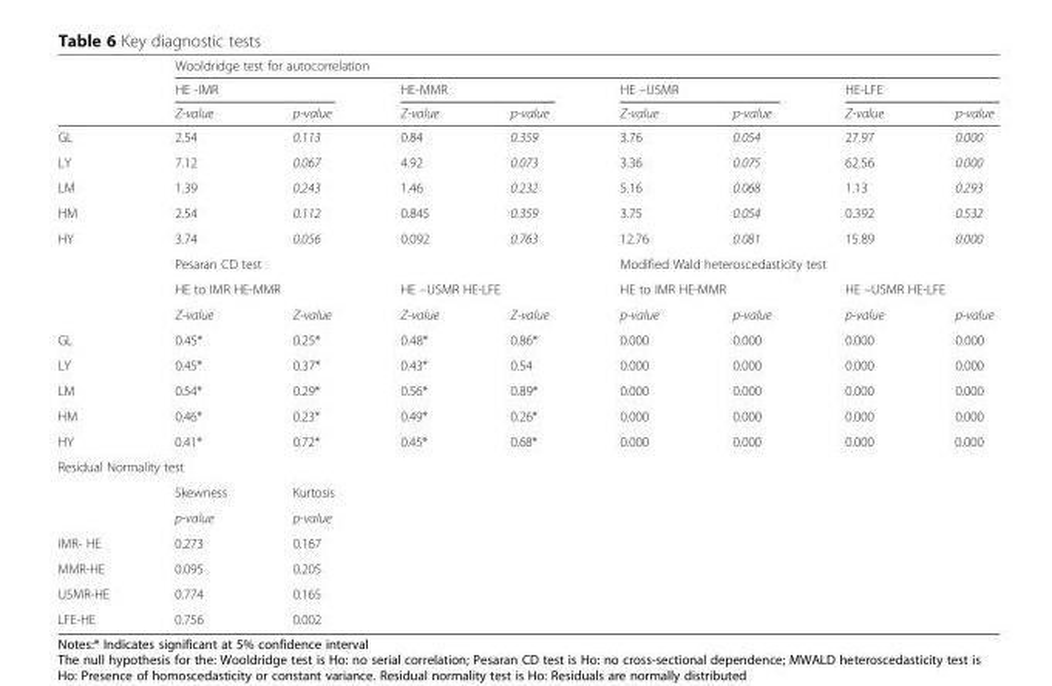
<table><thead><tr><td rowspan="3"></td><td colspan="8">Wooldridge test for autocorrelation</td></tr><tr><td colspan="2">HE -IMR</td><td colspan="2">HE-MMR</td><td colspan="2">HE –U5MR</td><td colspan="2">HE-LFE</td></tr><tr><td>Z-value</td><td>p-value</td><td>Z-value</td><td>p-value</td><td>Z-value</td><td>p-value</td><td>Z-value</td><td>p-value</td></tr></thead><tbody><tr><td>GL</td><td>2.54</td><td>0.113</td><td>0.84</td><td>0.359</td><td>3.76</td><td>0.054</td><td>27.97</td><td>0.000</td></tr><tr><td>LY</td><td>7.12</td><td>0.067</td><td>4.92</td><td>0.073</td><td>3.36</td><td>0.075</td><td>62.56</td><td>0.000</td></tr><tr><td>LM</td><td>1.39</td><td>0.243</td><td>1.46</td><td>0.232</td><td>5.16</td><td>0.068</td><td>1.13</td><td>0.293</td></tr><tr><td>HM</td><td>2.54</td><td>0.112</td><td>0.845</td><td>0.359</td><td>3.75</td><td>0.054</td><td>0.392</td><td>0.532</td></tr><tr><td rowspan="4">HY</td><td>3.74</td><td>0.056</td><td>0.092</td><td>0.763</td><td>12.76</td><td>0.081</td><td>15.89</td><td>0.000</td></tr><tr><td colspan="4">Pesaran CD test</td><td colspan="4">Modified Wald heteroscedasticity test</td></tr><tr><td colspan="2">HE to IMR HE-MMR</td><td colspan="2">HE –U5MR HE-LFE</td><td colspan="2">HE to IMR HE-MMR</td><td colspan="2">HE –U5MR HE-LFE</td></tr><tr><td>Z-value</td><td>Z-value</td><td>Z-value</td><td>Z-value</td><td>p-value</td><td>p-value</td><td>p-value</td><td>p-value</td></tr><tr><td>GL</td><td>0.45*</td><td>0.25*</td><td>0.48*</td><td>0.86*</td><td>0.000</td><td>0.000</td><td>0.000</td><td>0.000</td></tr><tr><td>LY</td><td>0.45*</td><td>0.37*</td><td>0.43*</td><td>0.54</td><td>0.000</td><td>0.000</td><td>0.000</td><td>0.000</td></tr><tr><td>LM</td><td>0.54*</td><td>0.29*</td><td>0.56*</td><td>0.89*</td><td>0.000</td><td>0.000</td><td>0.000</td><td>0.000</td></tr><tr><td>HM</td><td>0.46*</td><td>0.23*</td><td>0.49*</td><td>0.26*</td><td>0.000</td><td>0.000</td><td>0.000</td><td>0.000</td></tr><tr><td>HY</td><td>0.41*</td><td>0.72*</td><td>0.45*</td><td>0.68*</td><td>0.000</td><td>0.000</td><td>0.000</td><td>0.000</td></tr><tr><td colspan="9">Residual Normality test</td></tr><tr><td></td><td>Skewness</td><td>Kurtosis</td><td></td><td></td><td></td><td></td><td></td><td></td></tr><tr><td></td><td>p-value</td><td>p-value</td><td></td><td></td><td></td><td></td><td></td><td></td></tr><tr><td>IMR- HE</td><td>0.273</td><td>0.167</td><td></td><td></td><td></td><td></td><td></td><td></td></tr><tr><td>MMR-HE</td><td>0.095</td><td>0.205</td><td></td><td></td><td></td><td></td><td></td><td></td></tr><tr><td>U5MR-HE</td><td>0.774</td><td>0.165</td><td></td><td></td><td></td><td></td><td></td><td></td></tr><tr><td>LFE-HE</td><td>0.756</td><td>0.002</td><td></td><td></td><td></td><td></td><td></td><td></td></tr></tbody></table>